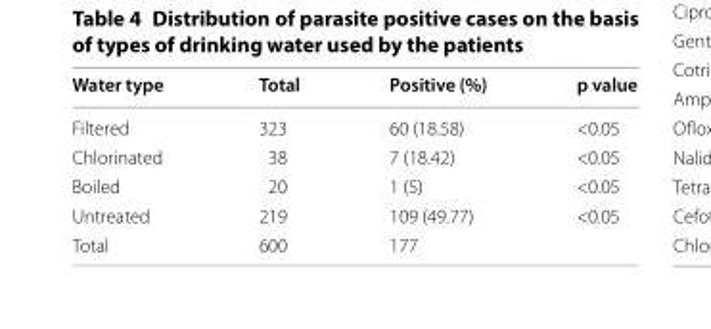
<table><thead><tr><td>Water type</td><td>Total</td><td>Positive (%)</td><td>p value</td></tr></thead><tbody><tr><td>Filtered</td><td>323</td><td>60 (18.58)</td><td>&lt;0.05</td></tr><tr><td>Chlorinated</td><td>38</td><td>7 (18.42)</td><td>&lt;0.05</td></tr><tr><td>Boiled</td><td>20</td><td>1 (5)</td><td>&lt;0.05</td></tr><tr><td>Untreated</td><td>219</td><td>109 (49.77)</td><td>&lt;0.05</td></tr><tr><td>Total</td><td>600</td><td>177</td><td></td></tr></tbody></table>